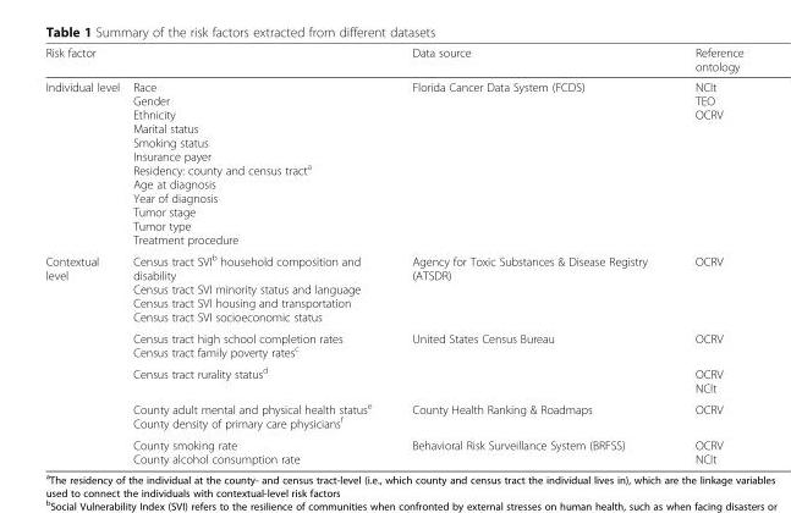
<table><thead><tr><td colspan="2">Risk factor</td><td rowspan="2">Data source Florida Cancer Data System (FCDS)</td><td rowspan="2">Reference ontology NCIt TEO OCRV</td></tr><tr><td>Individual level</td><td>Race Gender Ethnicity Marital status Smoking status Insurance payer Residency: county and census tract<sup>a</sup> Age at diagnosis Year of diagnosis Tumor stage Tumor type Treatment procedure</td></tr></thead><tbody><tr><td rowspan="5">Contextual level</td><td>Census tract SVI<sup>b</sup> household composition and disability Census tract SVI minority status and language Census tract SVI housing and transportation Census tract SVI socioeconomic status</td><td>Agency for Toxic Substances &amp; Disease Registry (ATSDR)</td><td>OCRV</td></tr><tr><td>Census tract high school completion rates Census tract family poverty rates<sup>c</sup></td><td>United States Census Bureau</td><td>OCRV</td></tr><tr><td>Census tract rurality status<sup>d</sup></td><td></td><td>OCRV NCIt</td></tr><tr><td>County adult mental and physical health status<sup>e</sup> County density of primary care physicians<sup>f</sup></td><td>County Health Ranking &amp; Roadmaps</td><td>OCRV</td></tr><tr><td>County smoking rate County alcohol consumption rate</td><td>Behavioral Risk Surveillance System (BRFSS)</td><td>OCRV NCIt</td></tr></tbody></table>